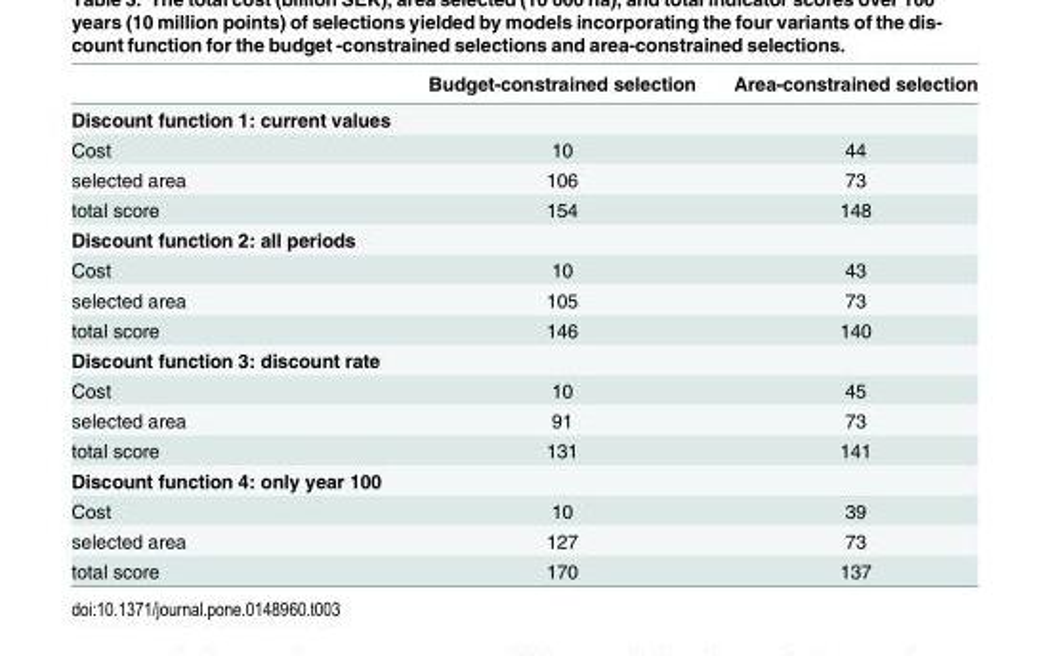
<table><thead><tr><td></td><td>Budget-constrained selection</td><td>Area-constrained selection</td></tr></thead><tbody><tr><td colspan="3">Discount function 1: current values</td></tr><tr><td>Cost</td><td>10</td><td>44</td></tr><tr><td>selected area</td><td>106</td><td>73</td></tr><tr><td>total score</td><td>154</td><td>148</td></tr><tr><td colspan="3">Discount function 2: all periods</td></tr><tr><td>Cost</td><td>10</td><td>43</td></tr><tr><td>selected area</td><td>105</td><td>73</td></tr><tr><td>total score</td><td>146</td><td>140</td></tr><tr><td colspan="3">Discount function 3: discount rate</td></tr><tr><td>Cost</td><td>10</td><td>45</td></tr><tr><td>selected area</td><td>91</td><td>73</td></tr><tr><td>total score</td><td>131</td><td>141</td></tr><tr><td colspan="3">Discount function 4: only year 100</td></tr><tr><td>Cost</td><td>10</td><td>39</td></tr><tr><td>selected area</td><td>127</td><td>73</td></tr><tr><td>total score</td><td>170</td><td>137</td></tr></tbody></table>